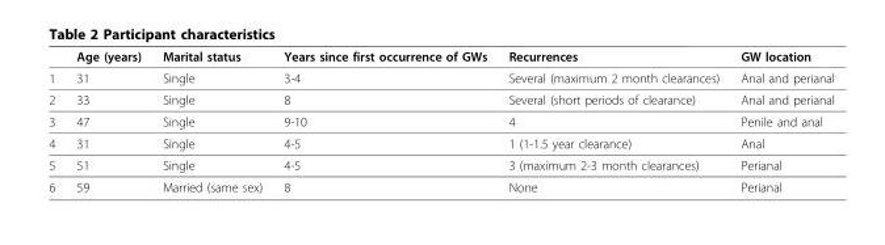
<table><thead><tr><td></td><td>Age (years)</td><td>Marital status</td><td>Years since first occurrence of GWs</td><td>Recurrences</td><td>GW location</td></tr></thead><tbody><tr><td>1</td><td>31</td><td>Single</td><td>3-4</td><td>Several (maximum 2 month clearances)</td><td>Anal and perianal</td></tr><tr><td>2</td><td>33</td><td>Single</td><td>8</td><td>Several (short periods of clearance)</td><td>Anal and perianal</td></tr><tr><td>3</td><td>47</td><td>Single</td><td>9-10</td><td>4</td><td>Penile and anal</td></tr><tr><td>4</td><td>31</td><td>Single</td><td>4-5</td><td>1 (1-1.5 year clearance)</td><td>Anal</td></tr><tr><td>5</td><td>51</td><td>Single</td><td>4-5</td><td>3 (maximum 2-3 month clearances)</td><td>Perianal</td></tr><tr><td>6</td><td>59</td><td>Married (same sex)</td><td>8</td><td>None</td><td>Perianal</td></tr></tbody></table>